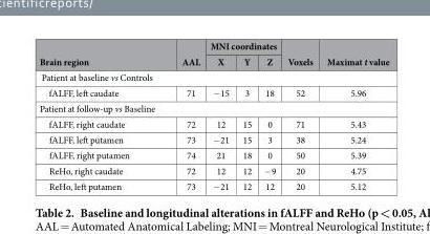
<table><thead><tr><td rowspan="2">Brain region</td><td rowspan="2">AAL</td><td colspan="3">MNI coordinates</td><td rowspan="2">Voxels</td><td rowspan="2">Maximat t value</td></tr><tr><td>X</td><td>Y</td><td>Z</td></tr></thead><tbody><tr><td colspan="7">Patient at baseline vs Controls</td></tr><tr><td>fALFF, left caudate</td><td>71</td><td>− 15</td><td>3</td><td>18</td><td>52</td><td>5.96</td></tr><tr><td colspan="7">Patient at follow-up vs Baseline</td></tr><tr><td>fALFF, right caudate</td><td>72</td><td>12</td><td>15</td><td>0</td><td>71</td><td>5.43</td></tr><tr><td>fALFF, left putamen</td><td>73</td><td>− 21</td><td>15</td><td>3</td><td>38</td><td>5.24</td></tr><tr><td>fALFF, right putamen</td><td>74</td><td>21</td><td>18</td><td>0</td><td>50</td><td>5.39</td></tr><tr><td>ReHo, right caudate</td><td>72</td><td>12</td><td>12</td><td>− 9</td><td>20</td><td>4.75</td></tr><tr><td>ReHo, left putamen</td><td>73</td><td>− 21</td><td>12</td><td>12</td><td>20</td><td>5.12</td></tr></tbody></table>